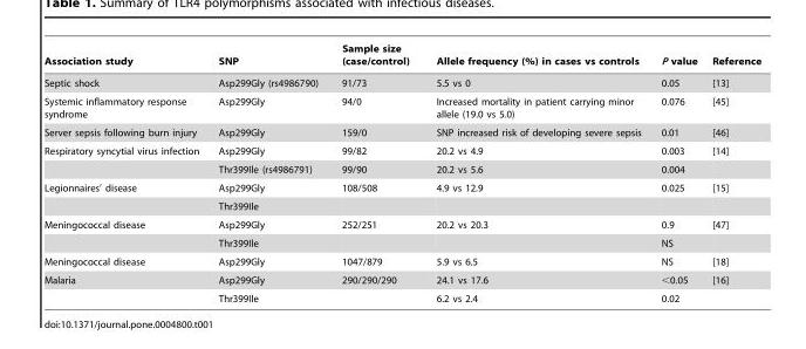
<table><thead><tr><td>Association study</td><td>SNP</td><td>Sample size (case/control)</td><td>Allele frequency (%) in cases vs controls</td><td>P value</td><td>Reference</td></tr></thead><tbody><tr><td>Septic shock</td><td>Asp299Gly (rs4986790)</td><td>91/73</td><td>5.5 vs 0</td><td>0.05</td><td>[13]</td></tr><tr><td>Systemic inflammatory response syndrome</td><td>Asp299Gly</td><td>94/0</td><td>Increased mortality in patient carrying minor allele (19.0 vs 5.0)</td><td>0.076</td><td>[45]</td></tr><tr><td>Server sepsis following burn injury</td><td>Asp299Gly</td><td>159/0</td><td>SNP increased risk of developing severe sepsis</td><td>0.01</td><td>[46]</td></tr><tr><td rowspan="2">Respiratory syncytial virus infection</td><td>Asp299Gly</td><td>99/82</td><td>20.2 vs 4.9</td><td>0.003</td><td>[14]</td></tr><tr><td>Thr399Ile (rs4986791)</td><td>99/90</td><td>20.2 vs 5.6</td><td>0.004</td><td></td></tr><tr><td rowspan="2">Legionnaires’ disease</td><td>Asp299Gly</td><td>108/508</td><td>4.9 vs 12.9</td><td>0.025</td><td>[15]</td></tr><tr><td>Thr399Ile</td><td></td><td></td><td></td><td></td></tr><tr><td rowspan="2">Meningococcal disease</td><td>Asp299Gly</td><td>252/251</td><td>20.2 vs 20.3</td><td>0.9</td><td>[47]</td></tr><tr><td>Thr399Ile</td><td></td><td></td><td>NS</td><td></td></tr><tr><td>Meningococcal disease</td><td>Asp299Gly</td><td>1047/879</td><td>5.9 vs 6.5</td><td>NS</td><td>[18]</td></tr><tr><td rowspan="2">Malaria</td><td>Asp299Gly</td><td>290/290/290</td><td>24.1 vs 17.6</td><td>&lt;0.05</td><td>[16]</td></tr><tr><td>Thr399Ile</td><td></td><td>6.2 vs 2.4</td><td>0.02</td><td></td></tr></tbody></table>